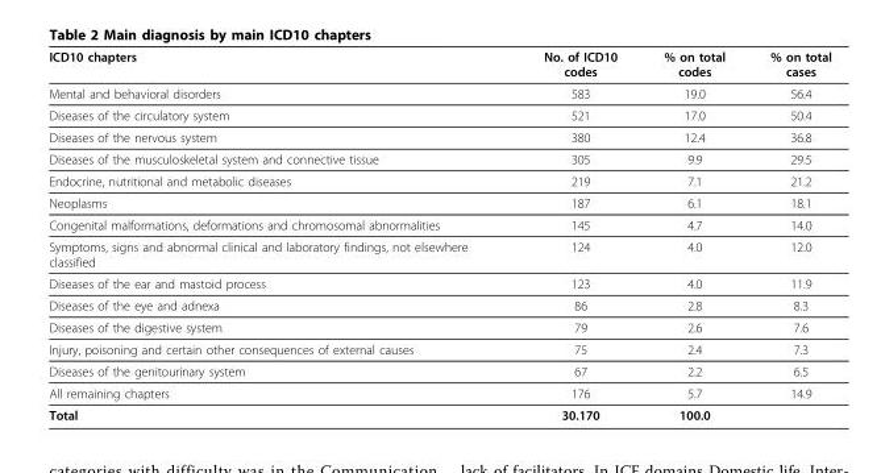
<table><thead><tr><td>ICD10 chapters</td><td>No. of ICD10 codes</td><td>% on total codes</td><td>% on total cases</td></tr></thead><tbody><tr><td>Mental and behavioral disorders</td><td>583</td><td>19.0</td><td>56.4</td></tr><tr><td>Diseases of the circulatory system</td><td>521</td><td>17.0</td><td>50.4</td></tr><tr><td>Diseases of the nervous system</td><td>380</td><td>12.4</td><td>36.8</td></tr><tr><td>Diseases of the musculoskeletal system and connective tissue</td><td>305</td><td>9.9</td><td>29.5</td></tr><tr><td>Endocrine, nutritional and metabolic diseases</td><td>219</td><td>7.1</td><td>21.2</td></tr><tr><td>Neoplasms</td><td>187</td><td>6.1</td><td>18.1</td></tr><tr><td>Congenital malformations, deformations and chromosomal abnormalities</td><td>145</td><td>4.7</td><td>14.0</td></tr><tr><td>Symptoms, signs and abnormal clinical and laboratory findings, not elsewhere classified</td><td>124</td><td>4.0</td><td>12.0</td></tr><tr><td>Diseases of the ear and mastoid process</td><td>123</td><td>4.0</td><td>11.9</td></tr><tr><td>Diseases of the eye and adnexa</td><td>86</td><td>2.8</td><td>8.3</td></tr><tr><td>Diseases of the digestive system</td><td>79</td><td>2.6</td><td>7.6</td></tr><tr><td>Injury, poisoning and certain other consequences of external causes</td><td>75</td><td>2.4</td><td>7.3</td></tr><tr><td>Diseases of the genitourinary system</td><td>67</td><td>2.2</td><td>6.5</td></tr><tr><td>All remaining chapters</td><td>176</td><td>5.7</td><td>14.9</td></tr><tr><td>Total</td><td>30.170</td><td>100.0</td><td></td></tr></tbody></table>